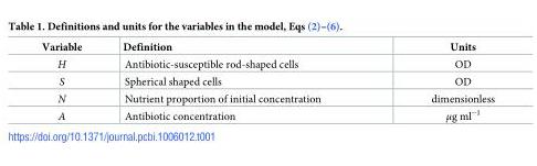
<table><thead><tr><td>Variable</td><td>Definition</td><td>Units</td></tr></thead><tbody><tr><td>H</td><td>Antibiotic-susceptible rod-shaped cells</td><td>OD</td></tr><tr><td>S</td><td>Spherical shaped cells</td><td>OD</td></tr><tr><td>N</td><td>Nutrient proportion of initial concentration</td><td>dimensionless</td></tr><tr><td>A</td><td>Antibiotic concentration</td><td>μg ml<sup>−1</sup></td></tr></tbody></table>